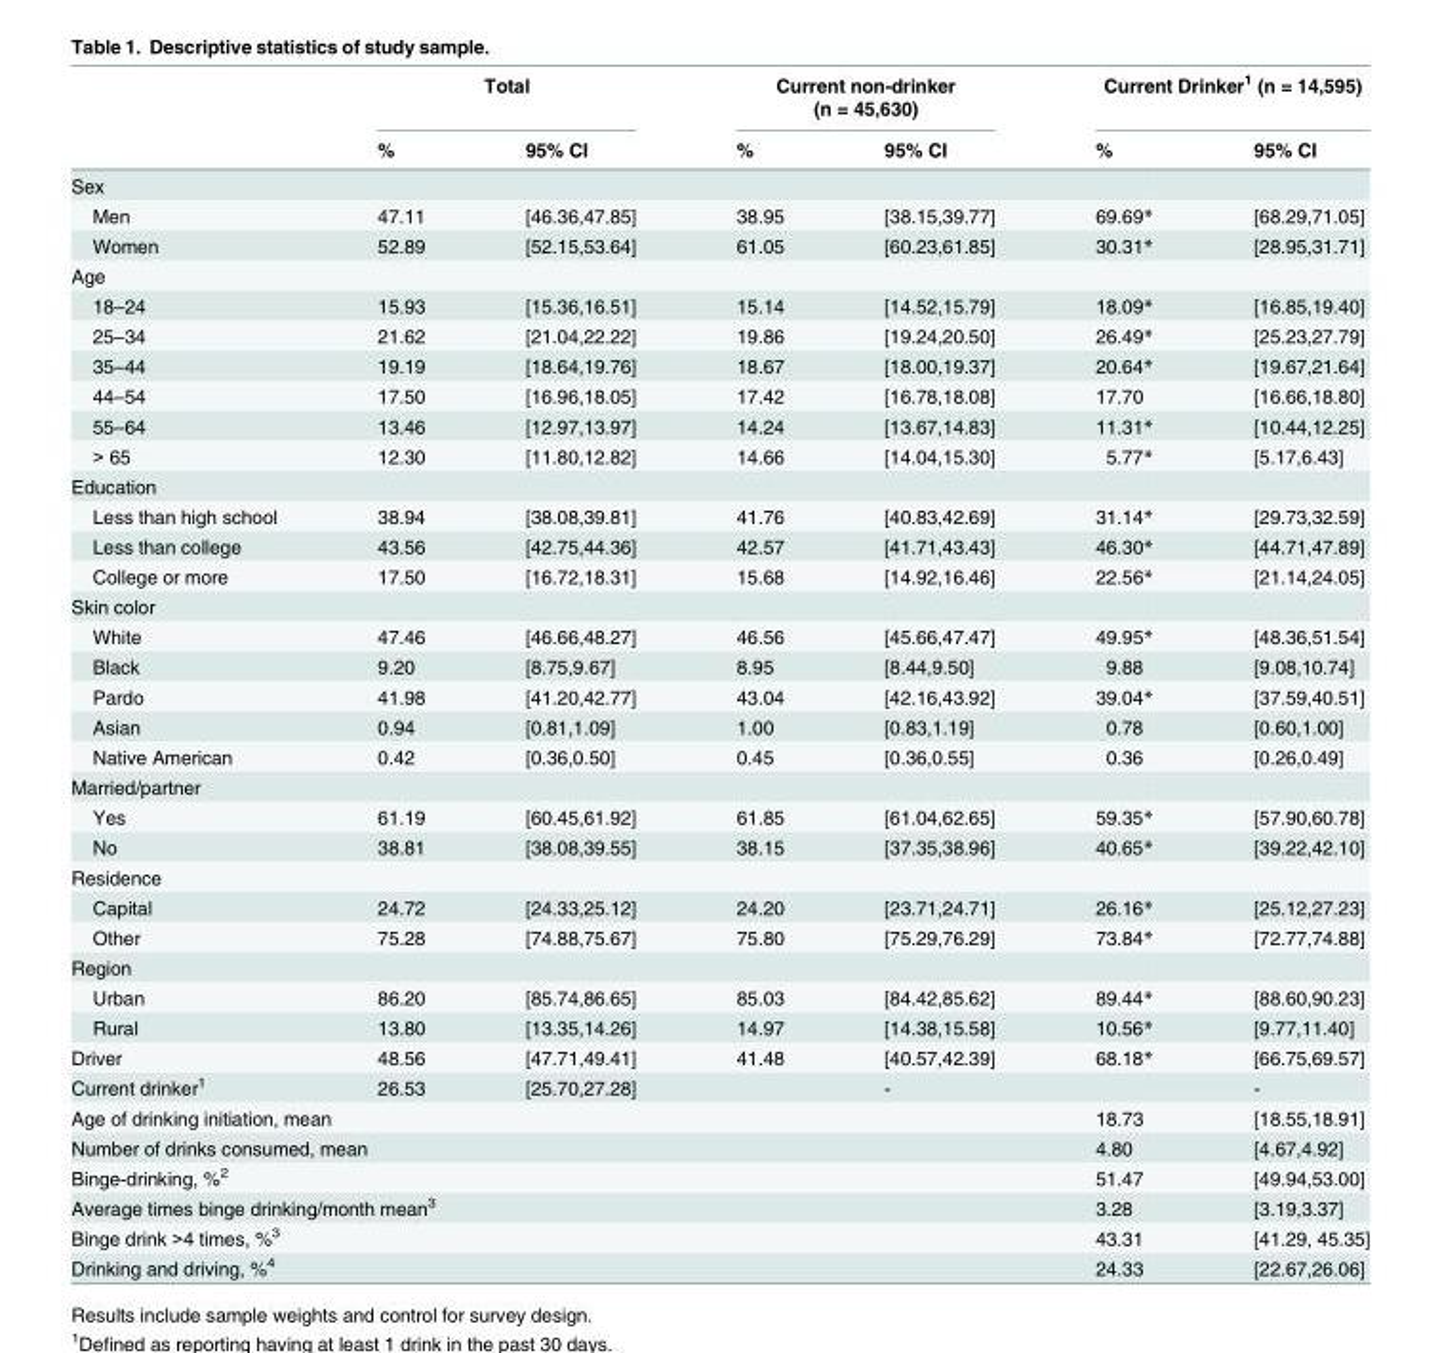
<table><thead><tr><td rowspan="2"></td><td colspan="2">Total</td><td colspan="2">Current non-drinker (n = 45,630)</td><td colspan="2">Current Drinker<sup>1</sup> (n = 14,595)</td></tr><tr><td>%</td><td>95% CI</td><td>%</td><td>95% CI</td><td>%</td><td>95% CI</td></tr></thead><tbody><tr><td colspan="7">Sex</td></tr><tr><td>Men</td><td>47.11</td><td>[46.36,47.85]</td><td>38.95</td><td>[38.15,39.77]</td><td>69.69*</td><td>[68.29,71.05]</td></tr><tr><td>Women</td><td>52.89</td><td>[52.15,53.64]</td><td>61.05</td><td>[60.23,61.85]</td><td>30.31*</td><td>[28.95,31.71]</td></tr><tr><td colspan="7">Age</td></tr><tr><td>18–24</td><td>15.93</td><td>[15.36,16.51]</td><td>15.14</td><td>[14.52,15.79]</td><td>18.09*</td><td>[16.85,19.40]</td></tr><tr><td>25–34</td><td>21.62</td><td>[21.04,22.22]</td><td>19.86</td><td>[19.24,20.50]</td><td>26.49*</td><td>[25.23,27.79]</td></tr><tr><td>35–44</td><td>19.19</td><td>[18.64,19.76]</td><td>18.67</td><td>[18.00,19.37]</td><td>20.64*</td><td>[19.67,21.64]</td></tr><tr><td>44–54</td><td>17.50</td><td>[16.96,18.05]</td><td>17.42</td><td>[16.78,18.08]</td><td>17.70</td><td>[16.66,18.80]</td></tr><tr><td>55–64</td><td>13.46</td><td>[12.97,13.97]</td><td>14.24</td><td>[13.67,14.83]</td><td>11.31*</td><td>[10.44,12.25]</td></tr><tr><td>&gt; 65</td><td>12.30</td><td>[11.80,12.82]</td><td>14.66</td><td>[14.04,15.30]</td><td>5.77*</td><td>[5.17,6.43]</td></tr><tr><td colspan="7">Education</td></tr><tr><td>Less than high school</td><td>38.94</td><td>[38.08,39.81]</td><td>41.76</td><td>[40.83,42.69]</td><td>31.14*</td><td>[29.73,32.59]</td></tr><tr><td>Less than college</td><td>43.56</td><td>[42.75,44.36]</td><td>42.57</td><td>[41.71,43.43]</td><td>46.30*</td><td>[44.71,47.89]</td></tr><tr><td>College or more</td><td>17.50</td><td>[16.72,18.31]</td><td>15.68</td><td>[14.92,16.46]</td><td>22.56*</td><td>[21.14,24.05]</td></tr><tr><td colspan="7">Skin color</td></tr><tr><td>White</td><td>47.46</td><td>[46.66,48.27]</td><td>46.56</td><td>[45.66,47.47]</td><td>49.95*</td><td>[48.36,51.54]</td></tr><tr><td>Black</td><td>9.20</td><td>[8.75,9.67]</td><td>8.95</td><td>[8.44,9.50]</td><td>9.88</td><td>[9.08,10.74]</td></tr><tr><td>Pardo</td><td>41.98</td><td>[41.20,42.77]</td><td>43.04</td><td>[42.16,43.92]</td><td>39.04*</td><td>[37.59,40.51]</td></tr><tr><td>Asian</td><td>0.94</td><td>[0.81,1.09]</td><td>1.00</td><td>[0.83,1.19]</td><td>0.78</td><td>[0.60,1.00]</td></tr><tr><td>Native American</td><td>0.42</td><td>[0.36,0.50]</td><td>0.45</td><td>[0.36,0.55]</td><td>0.36</td><td>[0.26,0.49]</td></tr><tr><td colspan="7">Married/partner</td></tr><tr><td>Yes</td><td>61.19</td><td>[60.45,61.92]</td><td>61.85</td><td>[61.04,62.65]</td><td>59.35*</td><td>[57.90,60.78]</td></tr><tr><td>No</td><td>38.81</td><td>[38.08,39.55]</td><td>38.15</td><td>[37.35,38.96]</td><td>40.65*</td><td>[39.22,42.10]</td></tr><tr><td colspan="7">Residence</td></tr><tr><td>Capital</td><td>24.72</td><td>[24.33,25.12]</td><td>24.20</td><td>[23.71,24.71]</td><td>26.16*</td><td>[25.12,27.23]</td></tr><tr><td>Other</td><td>75.28</td><td>[74.88,75.67]</td><td>75.80</td><td>[75.29,76.29]</td><td>73.84*</td><td>[72.77,74.88]</td></tr><tr><td colspan="7">Region</td></tr><tr><td>Urban</td><td>86.20</td><td>[85.74,86.65]</td><td>85.03</td><td>[84.42,85.62]</td><td>89.44*</td><td>[88.60,90.23]</td></tr><tr><td>Rural</td><td>13.80</td><td>[13.35,14.26]</td><td>14.97</td><td>[14.38,15.58]</td><td>10.56*</td><td>[9.77,11.40]</td></tr><tr><td>Driver</td><td>48.56</td><td>[47.71,49.41]</td><td>41.48</td><td>[40.57,42.39]</td><td>68.18*</td><td>[66.75,69.57]</td></tr><tr><td>Current drinker<sup>1</sup></td><td>26.53</td><td>[25.70,27.28]</td><td></td><td>-</td><td></td><td>-</td></tr><tr><td colspan="3">Age of drinking initiation, mean</td><td></td><td></td><td>18.73</td><td>[18.55,18.91]</td></tr><tr><td colspan="3">Number of drinks consumed, mean</td><td></td><td></td><td>4.80</td><td>[4.67,4.92]</td></tr><tr><td colspan="3">Binge-drinking, %<sup>2</sup></td><td colspan="2"></td><td>51.47</td><td>[49.94,53.00]</td></tr><tr><td colspan="3">Average times binge drinking/month mean<sup>3</sup></td><td colspan="2"></td><td>3.28</td><td>[3.19,3.37]</td></tr><tr><td colspan="3">Binge drink &gt;4 times, %<sup>3</sup></td><td colspan="2"></td><td>43.31</td><td>[41.29, 45.35]</td></tr><tr><td colspan="3">Drinking and driving, %<sup>4</sup></td><td colspan="2"></td><td>24.33</td><td>[22.67,26.06]</td></tr></tbody></table>